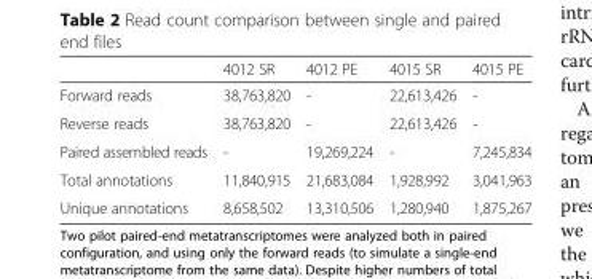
<table><thead><tr><td></td><td>4012 SR</td><td>4012 PE</td><td>4015 SR</td><td>4015 PE</td></tr></thead><tbody><tr><td>Forward reads</td><td>38,763,820</td><td>-</td><td>22,613,426</td><td>-</td></tr><tr><td>Reverse reads</td><td>38,763,820</td><td>-</td><td>22,613,426</td><td>-</td></tr><tr><td>Paired assembled reads</td><td>-</td><td>19,269,224</td><td>-</td><td>7,245,834</td></tr><tr><td>Total annotations</td><td>11,840,915</td><td>21,683,084</td><td>1,928,992</td><td>3,041,963</td></tr><tr><td>Unique annotations</td><td>8,658,502</td><td>13,310,506</td><td>1,280,940</td><td>1,875,267</td></tr></tbody></table>